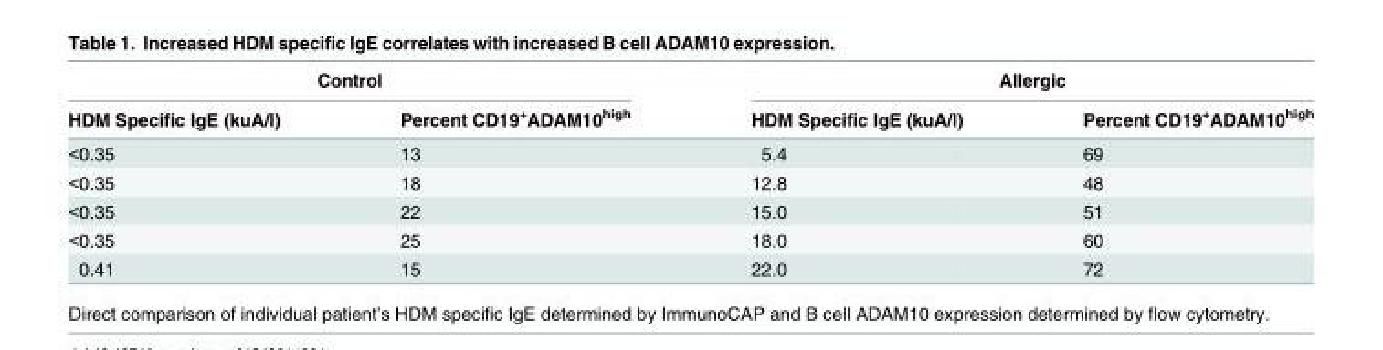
<table><thead><tr><td colspan="2">Control</td><td colspan="2">Allergic</td></tr><tr><td>HDM Specific IgE (kuA/l)</td><td>Percent CD19<sup>+</sup>ADAM10<sup>high</sup></td><td>HDM Specific IgE (kuA/l)</td><td>Percent CD19<sup>+</sup>ADAM10<sup>high</sup></td></tr></thead><tbody><tr><td>&lt;0.35</td><td>13</td><td>5.4</td><td>69</td></tr><tr><td>&lt;0.35</td><td>18</td><td>12.8</td><td>48</td></tr><tr><td>&lt;0.35</td><td>22</td><td>15.0</td><td>51</td></tr><tr><td>&lt;0.35</td><td>25</td><td>18.0</td><td>60</td></tr><tr><td>0.41</td><td>15</td><td>22.0</td><td>72</td></tr></tbody></table>